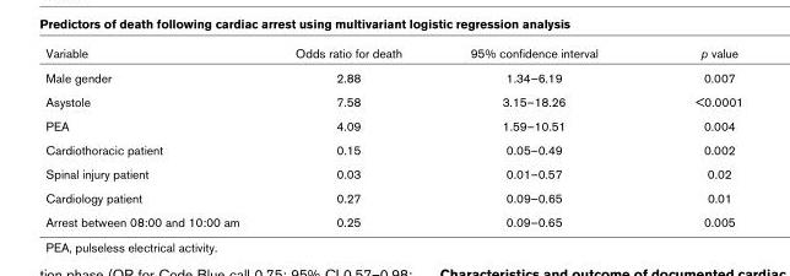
<table><thead><tr><td>Variable</td><td>Odds ratio for death</td><td>95% confidence interval</td><td>p value</td></tr></thead><tbody><tr><td>Male gender</td><td>2.88</td><td>1.34–6.19</td><td>0.007</td></tr><tr><td>Asystole</td><td>7.58</td><td>3.15–18.26</td><td>&lt;0.0001</td></tr><tr><td>PEA</td><td>4.09</td><td>1.59–10.51</td><td>0.004</td></tr><tr><td>Cardiothoracic patient</td><td>0.15</td><td>0.05–0.49</td><td>0.002</td></tr><tr><td>Spinal injury patient</td><td>0.03</td><td>0.01–0.57</td><td>0.02</td></tr><tr><td>Cardiology patient</td><td>0.27</td><td>0.09–0.65</td><td>0.01</td></tr><tr><td>Arrest between 08:00 and 10:00 am</td><td>0.25</td><td>0.09–0.65</td><td>0.005</td></tr></tbody></table>